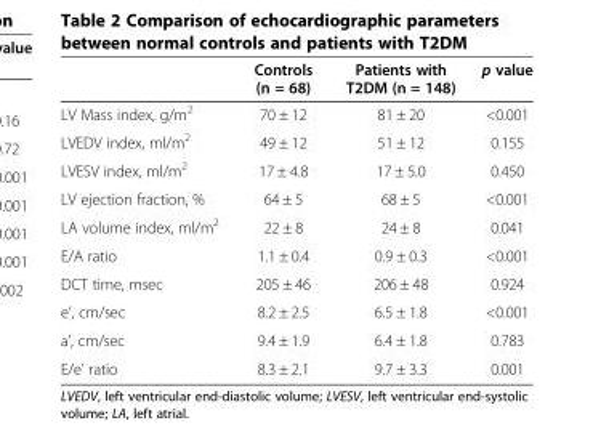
<table><thead><tr><td></td><td>Controls (n = 68)</td><td>Patients with T2DM (n = 148)</td><td>p value</td></tr></thead><tbody><tr><td>LV Mass index, g/m<sup>2</sup></td><td>70 ± 12</td><td>81 ± 20</td><td>&lt;0.001</td></tr><tr><td>LVEDV index, ml/m<sup>2</sup></td><td>49 ± 12</td><td>51 ± 12</td><td>0.155</td></tr><tr><td>LVESV index, ml/m<sup>2</sup></td><td>17 ± 4.8</td><td>17 ± 5.0</td><td>0.450</td></tr><tr><td>LV ejection fraction, %</td><td>64 ± 5</td><td>68 ± 5</td><td>&lt;0.001</td></tr><tr><td>LA volume index, ml/m<sup>2</sup></td><td>22 ± 8</td><td>24 ± 8</td><td>0.041</td></tr><tr><td>E/A ratio</td><td>1.1 ± 0.4</td><td>0.9 ± 0.3</td><td>&lt;0.001</td></tr><tr><td>DCT time, msec</td><td>205 ± 46</td><td>206 ± 48</td><td>0.924</td></tr><tr><td>e’, cm/sec</td><td>8.2 ± 2.5</td><td>6.5 ± 1.8</td><td>&lt;0.001</td></tr><tr><td>a’, cm/sec</td><td>9.4 ± 1.9</td><td>6.4 ± 1.8</td><td>0.783</td></tr><tr><td>E/e’ ratio</td><td>8.3 ± 2.1</td><td>9.7 ± 3.3</td><td>0.001</td></tr></tbody></table>